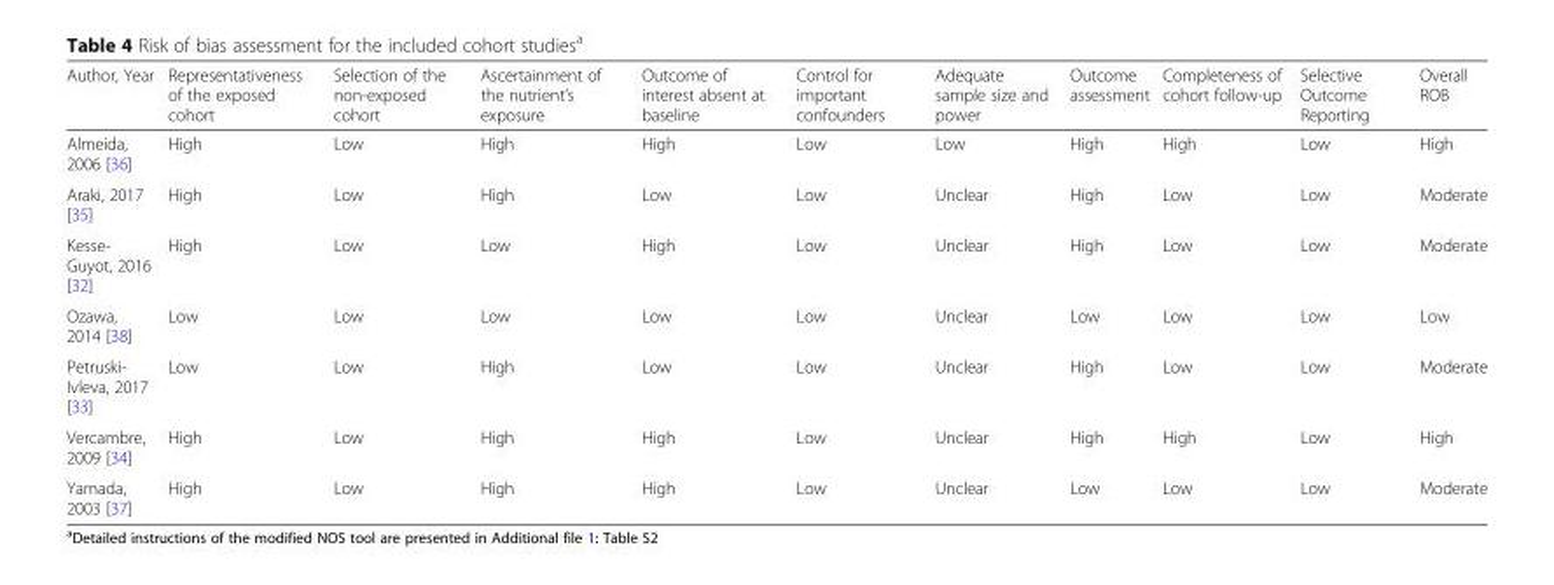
<table><thead><tr><td>Author, Year</td><td>Representativeness of the exposed cohort</td><td>Selection of the non-exposed cohort</td><td>Ascertainment of the nutrient’s exposure</td><td>Outcome of interest absent at baseline</td><td>Control for important confounders</td><td>Adequate sample size and power</td><td>Outcome assessment</td><td>Completeness of cohort follow-up</td><td>Selective Outcome Reporting</td><td>Overall ROB</td></tr></thead><tbody><tr><td>Almeida, 2006 [36]</td><td>High</td><td>Low</td><td>High</td><td>High</td><td>Low</td><td>Low</td><td>High</td><td>High</td><td>Low</td><td>High</td></tr><tr><td>Araki, 2017 [35]</td><td>High</td><td>Low</td><td>High</td><td>Low</td><td>Low</td><td>Unclear</td><td>High</td><td>Low</td><td>Low</td><td>Moderate</td></tr><tr><td>Kesse- Guyot, 2016 [32]</td><td>High</td><td>Low</td><td>Low</td><td>High</td><td>Low</td><td>Unclear</td><td>High</td><td>Low</td><td>Low</td><td>Moderate</td></tr><tr><td>Ozawa, 2014 [38]</td><td>Low</td><td>Low</td><td>Low</td><td>Low</td><td>Low</td><td>Unclear</td><td>Low</td><td>Low</td><td>Low</td><td>Low</td></tr><tr><td>Petruski- Ivleva, 2017 [33]</td><td>Low</td><td>Low</td><td>High</td><td>Low</td><td>Low</td><td>Unclear</td><td>High</td><td>Low</td><td>Low</td><td>Moderate</td></tr><tr><td>Vercambre, 2009 [34]</td><td>High</td><td>Low</td><td>High</td><td>High</td><td>Low</td><td>Unclear</td><td>High</td><td>High</td><td>Low</td><td>High</td></tr><tr><td>Yamada, 2003 [37]</td><td>High</td><td>Low</td><td>High</td><td>High</td><td>Low</td><td>Unclear</td><td>Low</td><td>Low</td><td>Low</td><td>Moderate</td></tr></tbody></table>